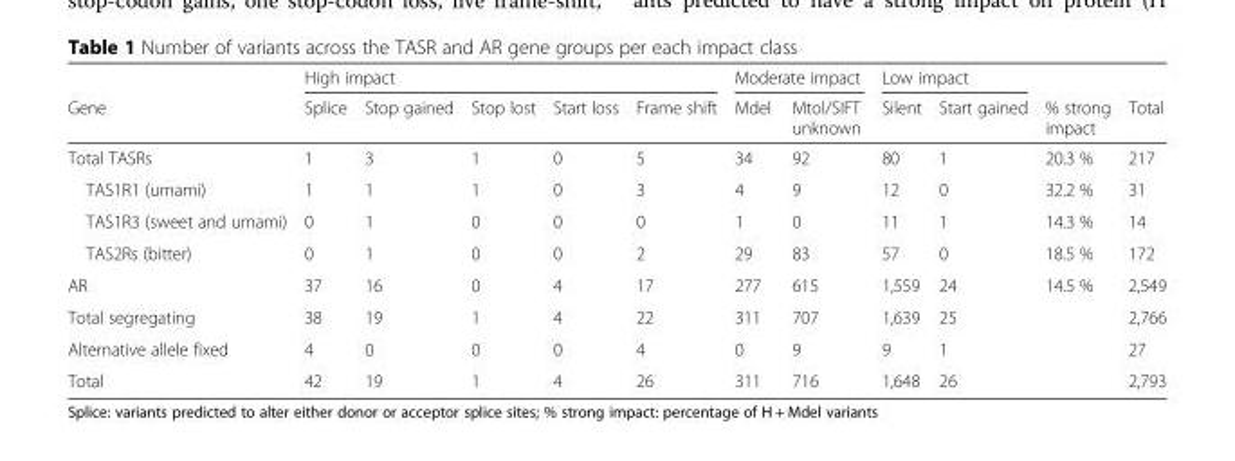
<table><thead><tr><td rowspan="2">Gene</td><td colspan="5">High impact</td><td colspan="2">Moderate impact</td><td colspan="2">Low impact</td><td rowspan="2">% strong impact</td><td rowspan="2">Total</td></tr><tr><td>Splice</td><td>Stop gained</td><td>Stop lost</td><td>Start loss</td><td>Frame shift</td><td>Mdel</td><td>Mtol/SIFT unknown</td><td>Silent</td><td>Start gained</td></tr></thead><tbody><tr><td>Total TASRs</td><td>1</td><td>3</td><td>1</td><td>0</td><td>5</td><td>34</td><td>92</td><td>80</td><td>1</td><td>20.3 %</td><td>217</td></tr><tr><td>TAS1R1 (umami)</td><td>1</td><td>1</td><td>1</td><td>0</td><td>3</td><td>4</td><td>9</td><td>12</td><td>0</td><td>32.2 %</td><td>31</td></tr><tr><td>TAS1R3 (sweet and umami)</td><td>0</td><td>1</td><td>0</td><td>0</td><td>0</td><td>1</td><td>0</td><td>11</td><td>1</td><td>14.3 %</td><td>14</td></tr><tr><td>TAS2Rs (bitter)</td><td>0</td><td>1</td><td>0</td><td>0</td><td>2</td><td>29</td><td>83</td><td>57</td><td>0</td><td>18.5 %</td><td>172</td></tr><tr><td>AR</td><td>37</td><td>16</td><td>0</td><td>4</td><td>17</td><td>277</td><td>615</td><td>1,559</td><td>24</td><td>14.5 %</td><td>2,549</td></tr><tr><td>Total segregating</td><td>38</td><td>19</td><td>1</td><td>4</td><td>22</td><td>311</td><td>707</td><td>1,639</td><td>25</td><td></td><td>2,766</td></tr><tr><td>Alternative allele fixed</td><td>4</td><td>0</td><td>0</td><td>0</td><td>4</td><td>0</td><td>9</td><td>9</td><td>1</td><td></td><td>27</td></tr><tr><td>Total</td><td>42</td><td>19</td><td>1</td><td>4</td><td>26</td><td>311</td><td>716</td><td>1,648</td><td>26</td><td></td><td>2,793</td></tr></tbody></table>